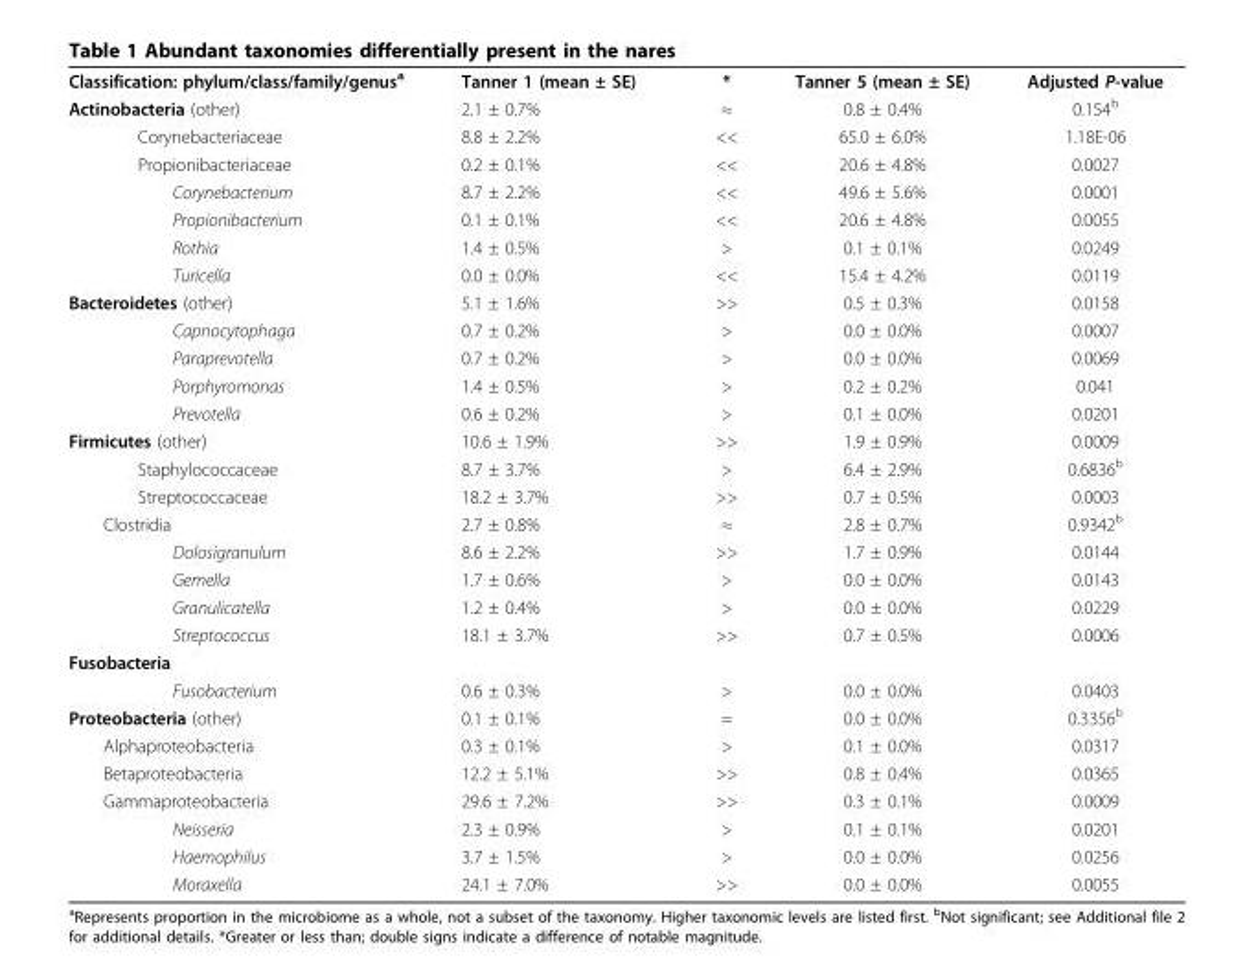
<table><tbody><tr><td>Classification: phylum/class/family/genus<sup>a</sup></td><td>Tanner 1 (mean ± SE)</td><td>*</td><td>Tanner 5 (mean ± SE)</td><td>Adjusted P-value</td></tr><tr><td>Actinobacteria (other)</td><td>2.1 ± 0.7%</td><td>≈</td><td>0.8 ± 0.4%</td><td>0.154<sup>b</sup></td></tr><tr><td>Corynebacteriaceae</td><td>8.8 ± 2.2%</td><td>&lt;&lt;</td><td>65.0 ± 6.0%</td><td>1.18E-06</td></tr><tr><td>Propionibacteriaceae</td><td>0.2 ± 0.1%</td><td>&lt;&lt;</td><td>20.6 ± 4.8%</td><td>0.0027</td></tr><tr><td>Corynebacterium</td><td>8.7 ± 2.2%</td><td>&lt;&lt;</td><td>49.6 ± 5.6%</td><td>0.0001</td></tr><tr><td>Propionibacterium</td><td>0.1 ± 0.1%</td><td>&lt;&lt;</td><td>20.6 ± 4.8%</td><td>0.0055</td></tr><tr><td>Rothia</td><td>1.4 ± 0.5%</td><td>&gt;</td><td>0.1 ± 0.1%</td><td>0.0249</td></tr><tr><td>Turicella</td><td>0.0 ± 0.0%</td><td>&lt;&lt;</td><td>15.4 ± 4.2%</td><td>0.0119</td></tr><tr><td>Bacteroidetes (other)</td><td>5.1 ± 1.6%</td><td>&gt;&gt;</td><td>0.5 ± 0.3%</td><td>0.0158</td></tr><tr><td>Capnocytophaga</td><td>0.7 ± 0.2%</td><td>&gt;</td><td>0.0 ± 0.0%</td><td>0.0007</td></tr><tr><td>Paraprevotella</td><td>0.7 ± 0.2%</td><td>&gt;</td><td>0.0 ± 0.0%</td><td>0.0069</td></tr><tr><td>Porphyromonas</td><td>1.4 ± 0.5%</td><td>&gt;</td><td>0.2 ± 0.2%</td><td>0.041</td></tr><tr><td>Prevotella</td><td>0.6 ± 0.2%</td><td>&gt;</td><td>0.1 ± 0.0%</td><td>0.0201</td></tr><tr><td>Firmicutes (other)</td><td>10.6 ± 1.9%</td><td>&gt;&gt;</td><td>1.9 ± 0.9%</td><td>0.0009</td></tr><tr><td>Staphylococcaceae</td><td>8.7 ± 3.7%</td><td>&gt;</td><td>6.4 ± 2.9%</td><td>0.6836<sup>b</sup></td></tr><tr><td>Streptococcaceae</td><td>18.2 ± 3.7%</td><td>&gt;&gt;</td><td>0.7 ± 0.5%</td><td>0.0003</td></tr><tr><td>Clostridia</td><td>2.7 ± 0.8%</td><td>≈</td><td>2.8 ± 0.7%</td><td>0.9342<sup>b</sup></td></tr><tr><td>Dolosigranulum</td><td>8.6 ± 2.2%</td><td>&gt;&gt;</td><td>1.7 ± 0.9%</td><td>0.0144</td></tr><tr><td>Gemella</td><td>1.7 ± 0.6%</td><td>&gt;</td><td>0.0 ± 0.0%</td><td>0.0143</td></tr><tr><td>Granulicatella</td><td>1.2 ± 0.4%</td><td>&gt;</td><td>0.0 ± 0.0%</td><td>0.0229</td></tr><tr><td>Streptococcus</td><td>18.1 ± 3.7%</td><td>&gt;&gt;</td><td>0.7 ± 0.5%</td><td>0.0006</td></tr><tr><td colspan="5">Fusobacteria</td></tr><tr><td>Fusobacterium</td><td>0.6 ± 0.3%</td><td>&gt;</td><td>0.0 ± 0.0%</td><td>0.0403</td></tr><tr><td>Proteobacteria (other)</td><td>0.1 ± 0.1%</td><td>≈</td><td>0.0 ± 0.0%</td><td>0.3356<sup>b</sup></td></tr><tr><td>Alphaproteobacteria</td><td>0.3 ± 0.1%</td><td>&gt;</td><td>0.1 ± 0.0%</td><td>0.0317</td></tr><tr><td>Betaproteobacteria</td><td>12.2 ± 5.1%</td><td>&gt;&gt;</td><td>0.8 ± 0.4%</td><td>0.0365</td></tr><tr><td>Gammaproteobacteria</td><td>29.6 ± 7.2%</td><td>&gt;&gt;</td><td>0.3 ± 0.1%</td><td>0.0009</td></tr><tr><td>Neisseria</td><td>2.3 ± 0.9%</td><td>&gt;</td><td>0.1 ± 0.1%</td><td>0.0201</td></tr><tr><td>Haemophilus</td><td>3.7 ± 1.5%</td><td>&gt;</td><td>0.0 ± 0.0%</td><td>0.0256</td></tr><tr><td>Moraxella</td><td>24.1 ± 7.0%</td><td>&gt;&gt;</td><td>0.0 ± 0.0%</td><td>0.0055</td></tr></tbody></table>